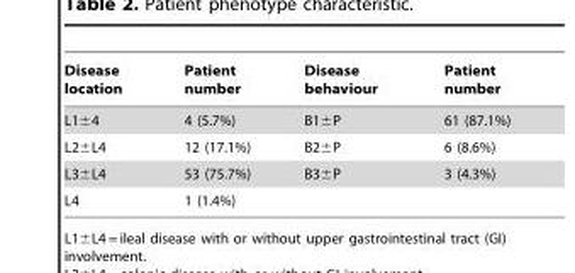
<table><thead><tr><td>Disease location</td><td>Patient number</td><td>Disease behaviour</td><td>Patient number</td></tr></thead><tbody><tr><td>L1±4</td><td>4 (5.7%)</td><td>B1±P</td><td>61 (87.1%)</td></tr><tr><td>L2±L4</td><td>12 (17.1%)</td><td>B2±P</td><td>6 (8.6%)</td></tr><tr><td>L3±L4</td><td>53 (75.7%)</td><td>B3±P</td><td>3 (4.3%)</td></tr><tr><td>L4</td><td>1 (1.4%)</td><td></td><td></td></tr></tbody></table>